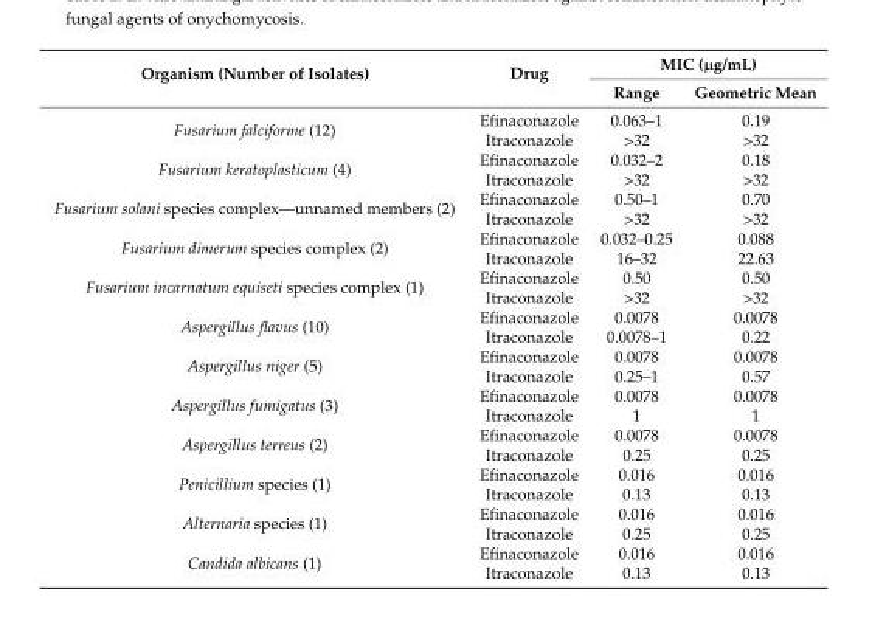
<table><thead><tr><td rowspan="2">Organism (Number of Isolates)</td><td rowspan="2">Drug</td><td colspan="2">MIC (µg/mL)</td></tr><tr><td>Range</td><td>Geometric Mean</td></tr></thead><tbody><tr><td rowspan="2">Fusarium falciforme (12)</td><td>Efinaconazole</td><td>0.063–1</td><td>0.19</td></tr><tr><td>Itraconazole</td><td>&gt;32</td><td>&gt;32</td></tr><tr><td rowspan="2">Fusarium keratoplasticum (4)</td><td>Efinaconazole</td><td>0.032–2</td><td>0.18</td></tr><tr><td>Itraconazole</td><td>&gt;32</td><td>&gt;32</td></tr><tr><td rowspan="2">Fusarium solani species complex—unnamed members (2)</td><td>Efinaconazole</td><td>0.50–1</td><td>0.70</td></tr><tr><td>Itraconazole</td><td>&gt;32</td><td>&gt;32</td></tr><tr><td rowspan="2">Fusarium dimerum species complex (2)</td><td>Efinaconazole</td><td>0.032–0.25</td><td>0.088</td></tr><tr><td>Itraconazole</td><td>16–32</td><td>22.63</td></tr><tr><td rowspan="2">Fusarium incarnatum equiseti species complex (1)</td><td>Efinaconazole</td><td>0.50</td><td>0.50</td></tr><tr><td>Itraconazole</td><td>&gt;32</td><td>&gt;32</td></tr><tr><td rowspan="2">Aspergillus flavus (10)</td><td>Efinaconazole</td><td>0.0078</td><td>0.0078</td></tr><tr><td>Itraconazole</td><td>0.0078–1</td><td>0.22</td></tr><tr><td rowspan="2">Aspergillus niger (5)</td><td>Efinaconazole</td><td>0.0078</td><td>0.0078</td></tr><tr><td>Itraconazole</td><td>0.25–1</td><td>0.57</td></tr><tr><td rowspan="2">Aspergillus fumigatus (3)</td><td>Efinaconazole</td><td>0.0078</td><td>0.0078</td></tr><tr><td>Itraconazole</td><td>1</td><td>1</td></tr><tr><td rowspan="2">Aspergillus terreus (2)</td><td>Efinaconazole</td><td>0.0078</td><td>0.0078</td></tr><tr><td>Itraconazole</td><td>0.25</td><td>0.25</td></tr><tr><td rowspan="2">Penicillium species (1)</td><td>Efinaconazole</td><td>0.016</td><td>0.016</td></tr><tr><td>Itraconazole</td><td>0.13</td><td>0.13</td></tr><tr><td rowspan="2">Alternaria species (1)</td><td>Efinaconazole</td><td>0.016</td><td>0.016</td></tr><tr><td>Itraconazole</td><td>0.25</td><td>0.25</td></tr><tr><td rowspan="2">Candida albicans (1)</td><td>Efinaconazole</td><td>0.016</td><td>0.016</td></tr><tr><td>Itraconazole</td><td>0.13</td><td>0.13</td></tr></tbody></table>